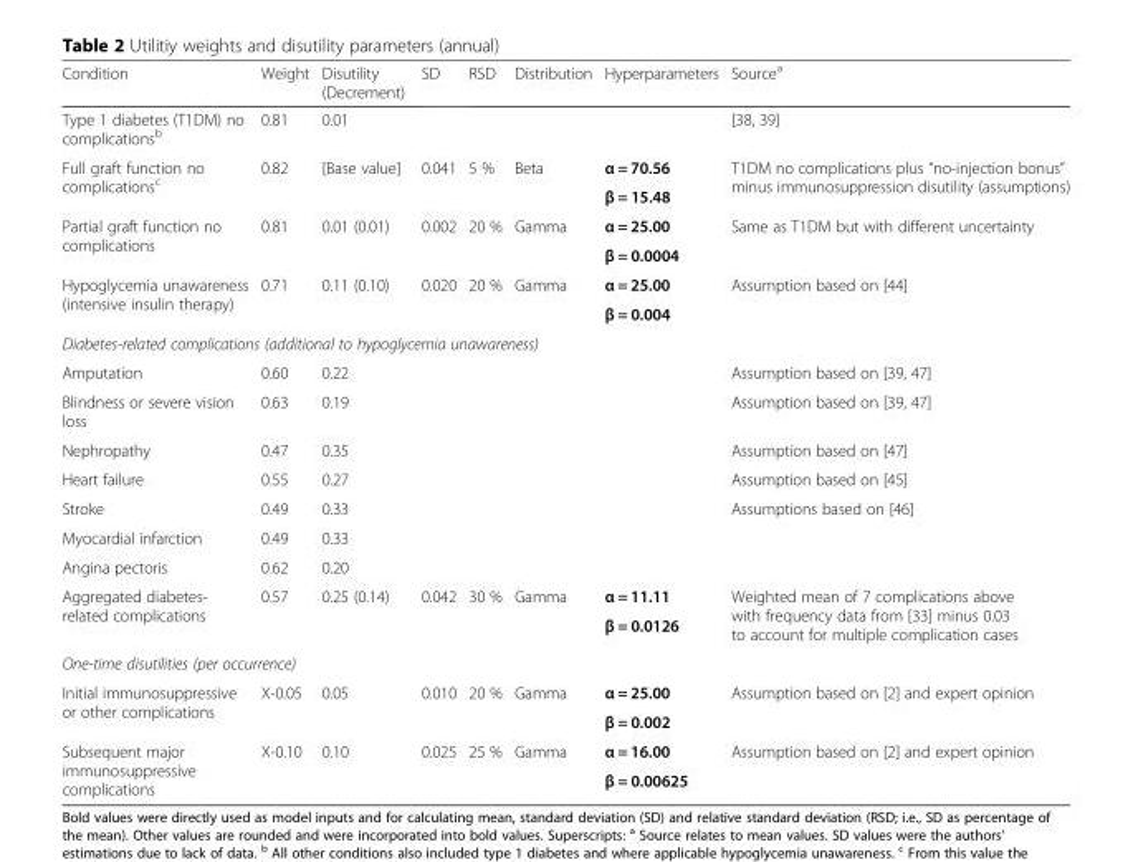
<table><thead><tr><td>Condition</td><td>Weight</td><td>Disutility (Decrement)</td><td>SD</td><td>RSD</td><td>Distribution</td><td>Hyperparameters</td><td>Source<sup>a</sup></td></tr></thead><tbody><tr><td>Type 1 diabetes (T1DM) no complications<sup>b</sup></td><td>0.81</td><td>0.01</td><td></td><td></td><td></td><td></td><td>[38, 39]</td></tr><tr><td rowspan="2">Full graft function no complications<sup>c</sup></td><td rowspan="2">0.82</td><td rowspan="2">[Base value]</td><td rowspan="2">0.041</td><td rowspan="2">5 %</td><td rowspan="2">Beta</td><td>α = 70.56</td><td rowspan="2">T1DM no complications plus “no-injection bonus” minus immunosuppression disutility (assumptions)</td></tr><tr><td>β = 15.48</td></tr><tr><td rowspan="2">Partial graft function no complications</td><td rowspan="2">0.81</td><td rowspan="2">0.01 (0.01)</td><td rowspan="2">0.002</td><td rowspan="2">20 %</td><td rowspan="2">Gamma</td><td>α = 25.00</td><td rowspan="2">Same as T1DM but with different uncertainty</td></tr><tr><td>β = 0.0004</td></tr><tr><td rowspan="2">Hypoglycemia unawareness (intensive insulin therapy)</td><td rowspan="2">0.71</td><td rowspan="2">0.11 (0.10)</td><td rowspan="2">0.020</td><td rowspan="2">20 %</td><td rowspan="2">Gamma</td><td>α = 25.00</td><td rowspan="2">Assumption based on [44]</td></tr><tr><td>β = 0.004</td></tr><tr><td colspan="8">Diabetes-related complications (additional to hypoglycemia unawareness)</td></tr><tr><td>Amputation</td><td>0.60</td><td>0.22</td><td></td><td></td><td></td><td></td><td>Assumption based on [39, 47]</td></tr><tr><td>Blindness or severe vision loss</td><td>0.63</td><td>0.19</td><td></td><td></td><td></td><td></td><td>Assumption based on [39, 47]</td></tr><tr><td>Nephropathy</td><td>0.47</td><td>0.35</td><td></td><td></td><td></td><td></td><td>Assumption based on [47]</td></tr><tr><td>Heart failure</td><td>0.55</td><td>0.27</td><td></td><td></td><td></td><td></td><td>Assumption based on [45]</td></tr><tr><td>Stroke</td><td>0.49</td><td>0.33</td><td rowspan="3"></td><td rowspan="3"></td><td rowspan="3"></td><td rowspan="3"></td><td rowspan="3">Assumptions based on [46]</td></tr><tr><td>Myocardial infarction</td><td>0.49</td><td>0.33</td></tr><tr><td>Angina pectoris</td><td>0.62</td><td>0.20</td></tr><tr><td rowspan="2">Aggregated diabetes- related complications</td><td rowspan="2">0.57</td><td rowspan="2">0.25 (0.14)</td><td rowspan="2">0.042</td><td rowspan="2">30 %</td><td rowspan="2">Gamma</td><td>α = 11.11</td><td rowspan="2">Weighted mean of 7 complications above with frequency data from [33] minus 0.03 to account for multiple complication cases</td></tr><tr><td>β = 0.0126</td></tr><tr><td colspan="8">One-time disutilities (per occurrence)</td></tr><tr><td rowspan="2">Initial immunosuppressive or other complications</td><td rowspan="2">X-0.05</td><td rowspan="2">0.05</td><td rowspan="2">0.010</td><td rowspan="2">20 %</td><td rowspan="2">Gamma</td><td>α = 25.00</td><td rowspan="2">Assumption based on [2] and expert opinion</td></tr><tr><td>β = 0.002</td></tr><tr><td rowspan="2">Subsequent major immunosuppressive complications</td><td rowspan="2">X-0.10</td><td rowspan="2">0.10</td><td rowspan="2">0.025</td><td rowspan="2">25 %</td><td rowspan="2">Gamma</td><td>α = 16.00</td><td rowspan="2">Assumption based on [2] and expert opinion</td></tr><tr><td>β = 0.00625</td></tr></tbody></table>